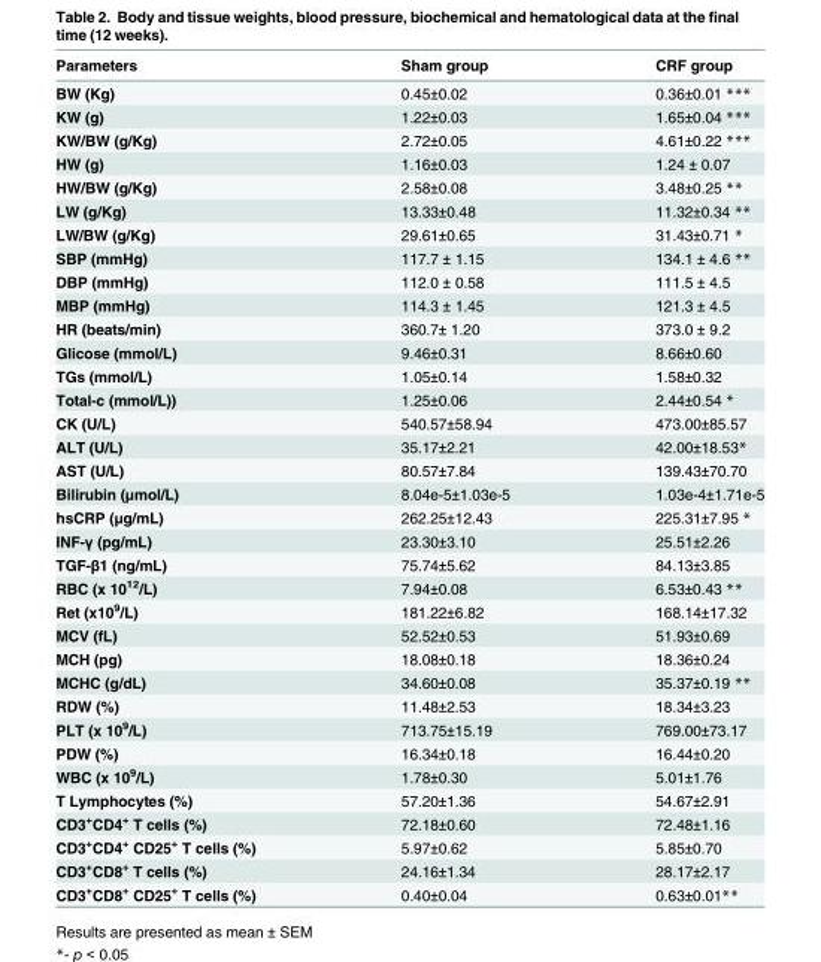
<table><thead><tr><td>Parameters</td><td>Sham group</td><td>CRF group</td></tr></thead><tbody><tr><td>BW (Kg)</td><td>0.45±0.02</td><td>0.36±0.01 ***</td></tr><tr><td>KW (g)</td><td>1.22±0.03</td><td>1.65±0.04 ***</td></tr><tr><td>KW/BW (g/Kg)</td><td>2.72±0.05</td><td>4.61±0.22 ***</td></tr><tr><td>HW (g)</td><td>1.16±0.03</td><td>1.24 ± 0.07</td></tr><tr><td>HW/BW (g/Kg)</td><td>2.58±0.08</td><td>3.48±0.25 **</td></tr><tr><td>LW (g/Kg)</td><td>13.33±0.48</td><td>11.32±0.34 **</td></tr><tr><td>LW/BW (g/Kg)</td><td>29.61±0.65</td><td>31.43±0.71 *</td></tr><tr><td>SBP (mmHg)</td><td>117.7 ± 1.15</td><td>134.1 ± 4.6 **</td></tr><tr><td>DBP (mmHg)</td><td>112.0 ± 0.58</td><td>111.5 ± 4.5</td></tr><tr><td>MBP (mmHg)</td><td>114.3 ± 1.45</td><td>121.3 ± 4.5</td></tr><tr><td>HR (beats/min)</td><td>360.7± 1.20</td><td>373.0 ± 9.2</td></tr><tr><td>Glicose (mmol/L)</td><td>9.46±0.31</td><td>8.66±0.60</td></tr><tr><td>TGs (mmol/L)</td><td>1.05±0.14</td><td>1.58±0.32</td></tr><tr><td>Total-c (mmol/L))</td><td>1.25±0.06</td><td>2.44±0.54 *</td></tr><tr><td>CK (U/L)</td><td>540.57±58.94</td><td>473.00±85.57</td></tr><tr><td>ALT (U/L)</td><td>35.17±2.21</td><td>42.00±18.53*</td></tr><tr><td>AST (U/L)</td><td>80.57±7.84</td><td>139.43±70.70</td></tr><tr><td>Bilirubin (μmol/L)</td><td>8.04e-5±1.03e-5</td><td>1.03e-4±1.71e-5</td></tr><tr><td>hsCRP (μg/mL)</td><td>262.25±12.43</td><td>225.31±7.95 *</td></tr><tr><td>INF-γ (pg/mL)</td><td>23.30±3.10</td><td>25.51±2.26</td></tr><tr><td>TGF-β1 (ng/mL)</td><td>75.74±5.62</td><td>84.13±3.85</td></tr><tr><td>RBC (x 10<sup>12</sup>/L)</td><td>7.94±0.08</td><td>6.53±0.43 **</td></tr><tr><td>Ret (x10<sup>9</sup>/L)</td><td>181.22±6.82</td><td>168.14±17.32</td></tr><tr><td>MCV (fL)</td><td>52.52±0.53</td><td>51.93±0.69</td></tr><tr><td>MCH (pg)</td><td>18.08±0.18</td><td>18.36±0.24</td></tr><tr><td>MCHC (g/dL)</td><td>34.60±0.08</td><td>35.37±0.19 **</td></tr><tr><td>RDW (%)</td><td>11.48±2.53</td><td>18.34±3.23</td></tr><tr><td>PLT (x 10<sup>9</sup>/L)</td><td>713.75±15.19</td><td>769.00±73.17</td></tr><tr><td>PDW (%)</td><td>16.34±0.18</td><td>16.44±0.20</td></tr><tr><td>WBC (x 10<sup>9</sup>/L)</td><td>1.78±0.30</td><td>5.01±1.76</td></tr><tr><td>T Lymphocytes (%)</td><td>57.20±1.36</td><td>54.67±2.91</td></tr><tr><td>CD3<sup>+</sup>CD4<sup>+</sup> T cells (%)</td><td>72.18±0.60</td><td>72.48±1.16</td></tr><tr><td>CD3<sup>+</sup>CD4<sup>+</sup> CD25<sup>+</sup> T cells (%)</td><td>5.97±0.62</td><td>5.85±0.70</td></tr><tr><td>CD3<sup>+</sup>CD8<sup>+</sup> T cells (%)</td><td>24.16±1.34</td><td>28.17±2.17</td></tr><tr><td>CD3<sup>+</sup>CD8<sup>+</sup> CD25<sup>+</sup> T cells (%)</td><td>0.40±0.04</td><td>0.63±0.01**</td></tr></tbody></table>